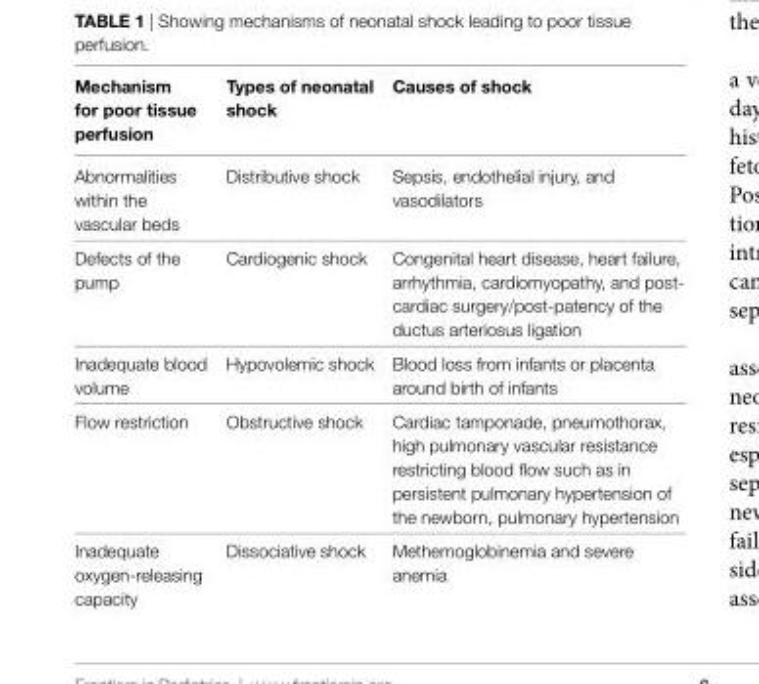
<table><thead><tr><td>Mechanism for poor tissue perfusion</td><td>Types of neonatal shock</td><td>Causes of shock</td></tr></thead><tbody><tr><td>Abnormalities within the vascular beds</td><td>Distributive shock</td><td>Sepsis, endothelial injury, and vasodilators</td></tr><tr><td>Defects of the pump</td><td>Cardiogenic shock</td><td>Congenital heart disease, heart failure, arrhythmia, cardiomyopathy, and post- cardiac surgery/post-patency of the ductus arteriosus ligation</td></tr><tr><td>Inadequate blood volume</td><td>Hypovolemic shock</td><td>Blood loss from infants or placenta around birth of infants</td></tr><tr><td>Flow restriction</td><td>Obstructive shock</td><td>Cardiac tamponade, pneumothorax, high pulmonary vascular resistance restricting blood flow such as in persistent pulmonary hypertension of the newborn, pulmonary hypertension</td></tr><tr><td>Inadequate oxygen-releasing capacity</td><td>Dissociative shock</td><td>Methemoglobinemia and severe anemia</td></tr></tbody></table>